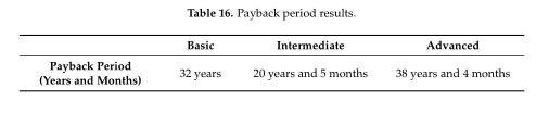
<table><thead><tr><td></td><td>Basic</td><td>Intermediate</td><td>Advanced</td></tr></thead><tbody><tr><td>Payback Period (Years and Months)</td><td>32 years</td><td>20 years and 5 months</td><td>38 years and 4 months</td></tr></tbody></table>